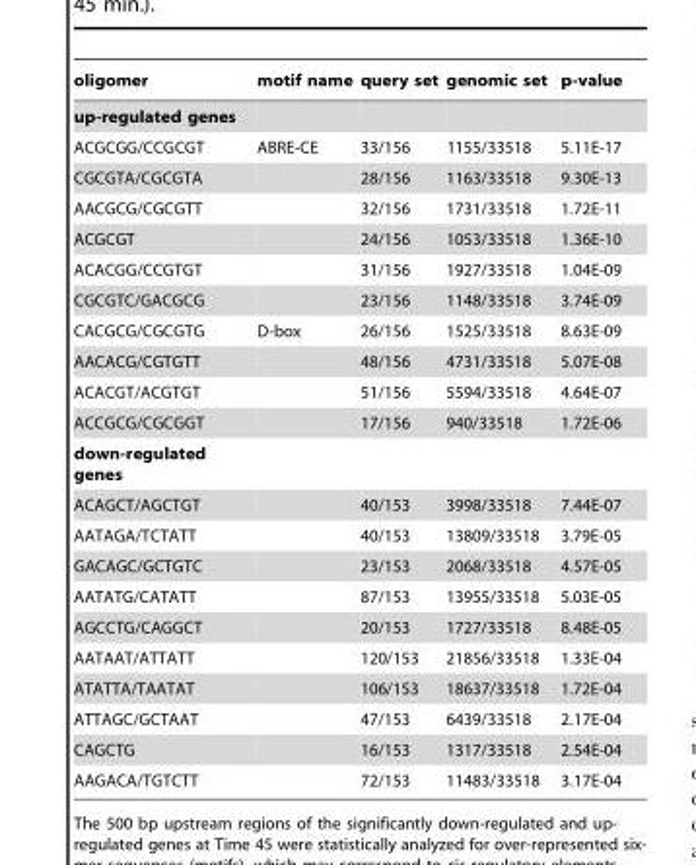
<table><thead><tr><td>oligomer</td><td>motif name</td><td>query set</td><td>genomic set</td><td>p-value</td></tr></thead><tbody><tr><td colspan="5">up-regulated genes</td></tr><tr><td>ACGCGG/CCGCGT</td><td>ABRE-CE</td><td>33/156</td><td>1155/33518</td><td>5.11E-17</td></tr><tr><td>CGCGTA/CGCGTA</td><td></td><td>28/156</td><td>1163/33518</td><td>9.30E-13</td></tr><tr><td>AACGCG/CGCGTT</td><td></td><td>32/156</td><td>1731/33518</td><td>1.72E-11</td></tr><tr><td>ACGCGT</td><td></td><td>24/156</td><td>1053/33518</td><td>1.36E-10</td></tr><tr><td>ACACGG/CCGTGT</td><td></td><td>31/156</td><td>1927/33518</td><td>1.04E-09</td></tr><tr><td>CGCGTC/GACGCG</td><td></td><td>23/156</td><td>1148/33518</td><td>3.74E-09</td></tr><tr><td>CACGCG/CGCGTG</td><td>D-box</td><td>26/156</td><td>1525/33518</td><td>8.63E-09</td></tr><tr><td>AACACG/CGTGTT</td><td></td><td>48/156</td><td>4731/33518</td><td>5.07E-08</td></tr><tr><td>ACACGT/ACGTGT</td><td></td><td>51/156</td><td>5594/33518</td><td>4.64E-07</td></tr><tr><td>ACCGCG/CGCGGT</td><td></td><td>17/156</td><td>940/33518</td><td>1.72E-06</td></tr><tr><td colspan="5">down-regulated genes</td></tr><tr><td>ACAGCT/AGCTGT</td><td></td><td>40/153</td><td>3998/33518</td><td>7.44E-07</td></tr><tr><td>AATAGA/TCTATT</td><td></td><td>40/153</td><td>13809/33518</td><td>3.79E-05</td></tr><tr><td>GACAGC/GCTGTC</td><td></td><td>23/153</td><td>2068/33518</td><td>4.57E-05</td></tr><tr><td>AATATG/CATATT</td><td></td><td>87/153</td><td>13955/33518</td><td>5.03E-05</td></tr><tr><td>AGCCTG/CAGGCT</td><td></td><td>20/153</td><td>1727/33518</td><td>8.48E-05</td></tr><tr><td>AATAAT/ATTATT</td><td></td><td>120/153</td><td>21856/33518</td><td>1.33E-04</td></tr><tr><td>ATATTA/TAATAT</td><td></td><td>106/153</td><td>18637/33518</td><td>1.72E-04</td></tr><tr><td>ATTAGC/GCTAAT</td><td></td><td>47/153</td><td>6439/33518</td><td>2.17E-04</td></tr><tr><td>CAGCTG</td><td></td><td>16/153</td><td>1317/33518</td><td>2.54E-04</td></tr><tr><td>AAGACA/TGTCTT</td><td></td><td>72/153</td><td>11483/33518</td><td>3.17E-04</td></tr></tbody></table>